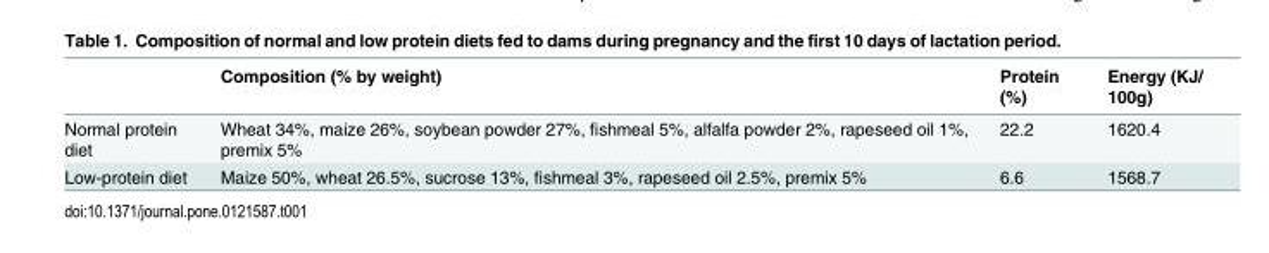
<table><thead><tr><td></td><td>Composition (% by weight)</td><td>Protein (%)</td><td>Energy (KJ/ 100g)</td></tr></thead><tbody><tr><td>Normal protein diet</td><td>Wheat 34%, maize 26%, soybean powder 27%, fishmeal 5%, alfalfa powder 2%, rapeseed oil 1%, premix 5%</td><td>22.2</td><td>1620.4</td></tr><tr><td>Low-protein diet</td><td>Maize 50%, wheat 26.5%, sucrose 13%, fishmeal 3%, rapeseed oil 2.5%, premix 5%</td><td>6.6</td><td>1568.7</td></tr></tbody></table>